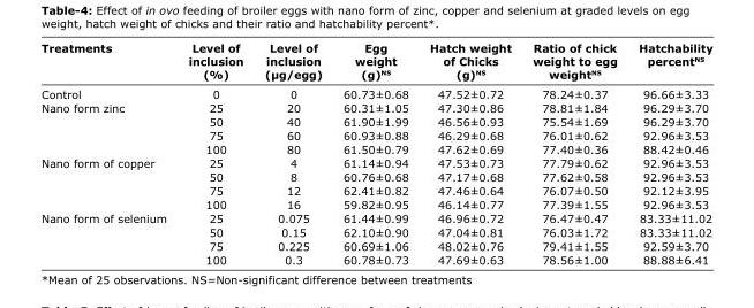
<table><thead><tr><td>Treatments</td><td>Level of inclusion (%)</td><td>Level of inclusion (µg/egg)</td><td>Egg weight (g)<sup>NS</sup></td><td>Hatch weight of Chicks (g)<sup>NS</sup></td><td>Ratio of chick weight to egg weight<sup>NS</sup></td><td>Hatchability percent<sup>NS</sup></td></tr></thead><tbody><tr><td>Control</td><td>0</td><td>0</td><td>60.73±0.68</td><td>47.52±0.72</td><td>78.24±0.37</td><td>96.66±3.33</td></tr><tr><td rowspan="4">Nano form zinc</td><td>25</td><td>20</td><td>60.31±1.05</td><td>47.30±0.86</td><td>78.81±1.84</td><td>96.29±3.70</td></tr><tr><td>50</td><td>40</td><td>61.90±1.99</td><td>46.56±0.93</td><td>75.54±1.69</td><td>96.29±3.70</td></tr><tr><td>75</td><td>60</td><td>60.93±0.88</td><td>46.29±0.68</td><td>76.01±0.62</td><td>92.96±3.53</td></tr><tr><td>100</td><td>80</td><td>61.50±0.79</td><td>47.62±0.69</td><td>77.40±0.36</td><td>88.42±0.46</td></tr><tr><td rowspan="4">Nano form of copper</td><td>25</td><td>4</td><td>61.14±0.94</td><td>47.53±0.73</td><td>77.79±0.62</td><td>92.96±3.53</td></tr><tr><td>50</td><td>8</td><td>60.76±0.68</td><td>47.17±0.68</td><td>77.62±0.58</td><td>92.96±3.53</td></tr><tr><td>75</td><td>12</td><td>62.41±0.82</td><td>47.46±0.64</td><td>76.07±0.50</td><td>92.12±3.95</td></tr><tr><td>100</td><td>16</td><td>59.82±0.95</td><td>46.14±0.77</td><td>77.39±1.55</td><td>92.96±3.53</td></tr><tr><td rowspan="4">Nano form of selenium</td><td>25</td><td>0.075</td><td>61.44±0.99</td><td>46.96±0.72</td><td>76.47±0.47</td><td>83.33±11.02</td></tr><tr><td>50</td><td>0.15</td><td>62.10±0.90</td><td>47.04±0.81</td><td>76.03±1.72</td><td>83.33±11.02</td></tr><tr><td>75</td><td>0.225</td><td>60.69±1.06</td><td>48.02±0.76</td><td>79.41±1.55</td><td>92.59±3.70</td></tr><tr><td>100</td><td>0.3</td><td>60.78±0.73</td><td>47.69±0.63</td><td>78.56±1.00</td><td>88.88±6.41</td></tr></tbody></table>